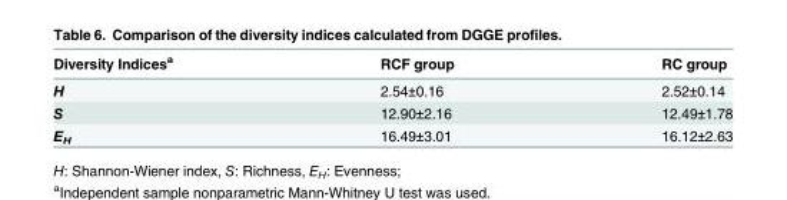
<table><thead><tr><td>Diversity Indices<sup>a</sup></td><td>RCF group</td><td>RC group</td></tr></thead><tbody><tr><td>H</td><td>2.54±0.16</td><td>2.52±0.14</td></tr><tr><td>S</td><td>12.90±2.16</td><td>12.49±1.78</td></tr><tr><td>E<sub>H</sub></td><td>16.49±3.01</td><td>16.12±2.63</td></tr></tbody></table>